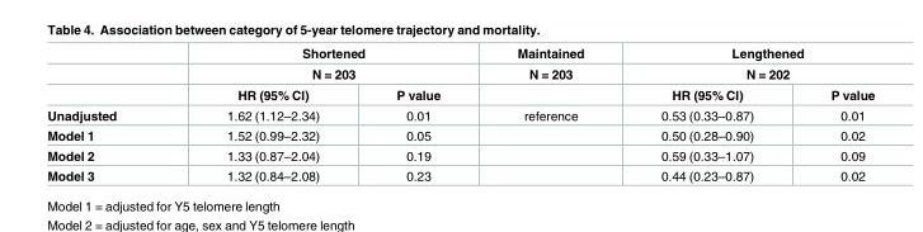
<table><thead><tr><td rowspan="3"></td><td rowspan="2" colspan="2">Shortened N = 203</td><td rowspan="3">Maintained N = 203</td><td rowspan="2" colspan="2">Lengthened N = 202</td></tr><tr></tr><tr><td>HR (95% CI)</td><td>P value</td><td>HR (95% CI)</td><td>P value</td></tr></thead><tbody><tr><td>Unadjusted</td><td>1.62 (1.12–2.34)</td><td>0.01</td><td>reference</td><td>0.53 (0.33–0.87)</td><td>0.01</td></tr><tr><td>Model 1</td><td>1.52 (0.99–2.32)</td><td>0.05</td><td></td><td>0.50 (0.28–0.90)</td><td>0.02</td></tr><tr><td>Model 2</td><td>1.33 (0.87–2.04)</td><td>0.19</td><td></td><td>0.59 (0.33–1.07)</td><td>0.09</td></tr><tr><td>Model 3</td><td>1.32 (0.84–2.08)</td><td>0.23</td><td></td><td>0.44 (0.23–0.87)</td><td>0.02</td></tr></tbody></table>